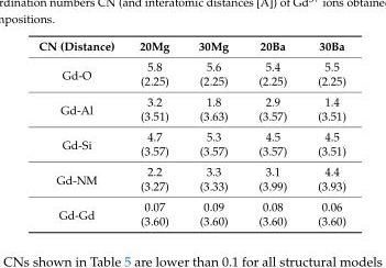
<table><thead><tr><td>CN (Distance)</td><td>20Mg</td><td>30Mg</td><td>20Ba</td><td>30Ba</td></tr></thead><tbody><tr><td rowspan="2">Gd-O</td><td>5.8</td><td>5.6</td><td>5.4</td><td>5.5</td></tr><tr><td>(2.25)</td><td>(2.25)</td><td>(2.25)</td><td>(2.25)</td></tr><tr><td rowspan="2">Gd-Al</td><td>3.2</td><td>1.8</td><td>2.9</td><td>1.4</td></tr><tr><td>(3.51)</td><td>(3.63)</td><td>(3.57)</td><td>(3.51)</td></tr><tr><td rowspan="2">Gd-Si</td><td>4.7</td><td>5.3</td><td>4.5</td><td>4.5</td></tr><tr><td>(3.57)</td><td>(3.57)</td><td>(3.57)</td><td>(3.51)</td></tr><tr><td rowspan="2">Gd-NM</td><td>2.2</td><td>3.3</td><td>3.1</td><td>4.4</td></tr><tr><td>(3.27)</td><td>(3.33)</td><td>(3.99)</td><td>(3.93)</td></tr><tr><td rowspan="2">Gd-Gd</td><td>0.07</td><td>0.09</td><td>0.08</td><td>0.06</td></tr><tr><td>(3.60)</td><td>(3.60)</td><td>(3.60)</td><td>(3.60)</td></tr></tbody></table>